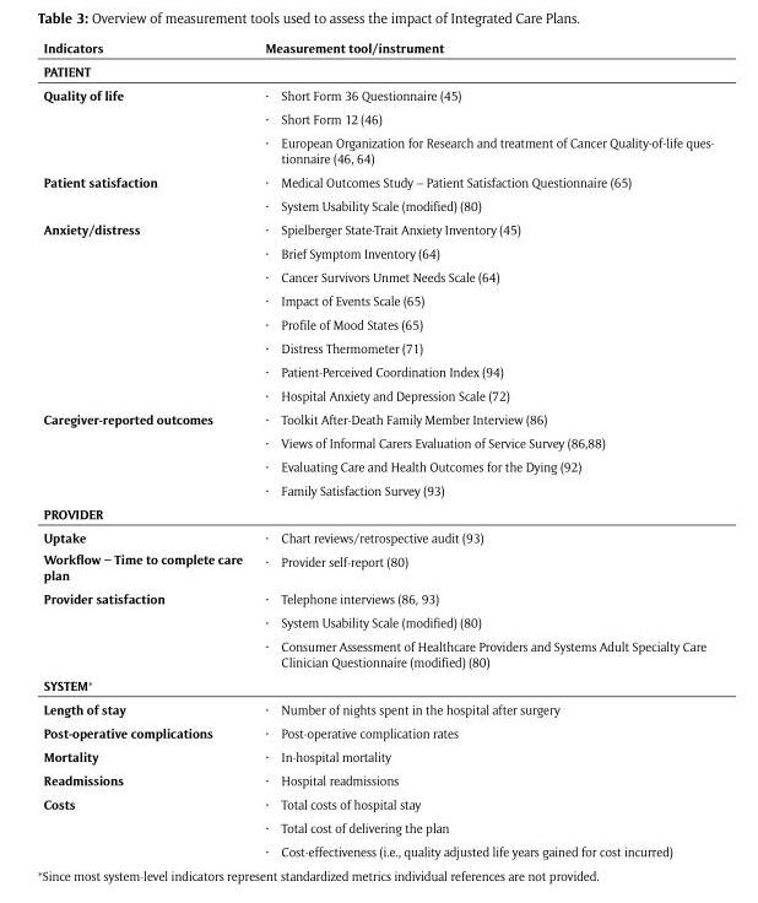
<table><thead><tr><td>Indicators</td><td>Measurement tool/instrument</td></tr></thead><tbody><tr><td colspan="2">PATIENT</td></tr><tr><td rowspan="3">Quality of life</td><td>• Short Form 36 Questionnaire (45)</td></tr><tr><td>• Short Form 12 (46)</td></tr><tr><td>• European Organization for Research and treatment of Cancer Quality-of-life ques- tionnaire (46, 64)</td></tr><tr><td rowspan="2">Patient satisfaction</td><td>• Medical Outcomes Study – Patient Satisfaction Questionnaire (65)</td></tr><tr><td>• System Usability Scale (modified) (80)</td></tr><tr><td rowspan="8">Anxiety/distress</td><td>• Spielberger State-Trait Anxiety Inventory (45)</td></tr><tr><td>• Brief Symptom Inventory (64)</td></tr><tr><td>• Cancer Survivors Unmet Needs Scale (64)</td></tr><tr><td>• Impact of Events Scale (65)</td></tr><tr><td>• Profile of Mood States (65)</td></tr><tr><td>• Distress Thermometer (71)</td></tr><tr><td>• Patient-Perceived Coordination Index (94)</td></tr><tr><td>• Hospital Anxiety and Depression Scale (72)</td></tr><tr><td rowspan="4">Caregiver-reported outcomes</td><td>• Toolkit After-Death Family Member Interview (86)</td></tr><tr><td>• Views of Informal Carers Evaluation of Service Survey (86,88)</td></tr><tr><td>• Evaluating Care and Health Outcomes for the Dying (92)</td></tr><tr><td>• Family Satisfaction Survey (93)</td></tr><tr><td colspan="2">PROVIDER</td></tr><tr><td>Uptake</td><td>• Chart reviews/retrospective audit (93)</td></tr><tr><td>Workflow – Time to complete care plan</td><td>• Provider self-report (80)</td></tr><tr><td rowspan="3">Provider satisfaction</td><td>• Telephone interviews (86, 93)</td></tr><tr><td>• System Usability Scale (modified) (80)</td></tr><tr><td>• Consumer Assessment of Healthcare Providers and Systems Adult Specialty Care Clinician Questionnaire (modified) (80)</td></tr><tr><td colspan="2">SYSTEM*</td></tr><tr><td>Length of stay</td><td>• Number of nights spent in the hospital after surgery</td></tr><tr><td>Post-operative complications</td><td>• Post-operative complication rates</td></tr><tr><td>Mortality</td><td>• In-hospital mortality</td></tr><tr><td>Readmissions</td><td>• Hospital readmissions</td></tr><tr><td rowspan="3">Costs</td><td>• Total costs of hospital stay</td></tr><tr><td>• Total cost of delivering the plan</td></tr><tr><td>• Cost-effectiveness (i.e., quality adjusted life years gained for cost incurred)</td></tr></tbody></table>